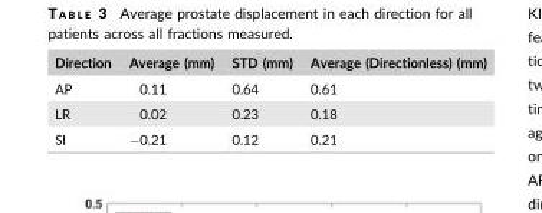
<table><thead><tr><td>Direction</td><td>Average (mm)</td><td>STD (mm)</td><td>Average (Directionless) (mm)</td></tr></thead><tbody><tr><td>AP</td><td>0.11</td><td>0.64</td><td>0.61</td></tr><tr><td>LR</td><td>0.02</td><td>0.23</td><td>0.18</td></tr><tr><td>SI</td><td>−0.21</td><td>0.12</td><td>0.21</td></tr></tbody></table>